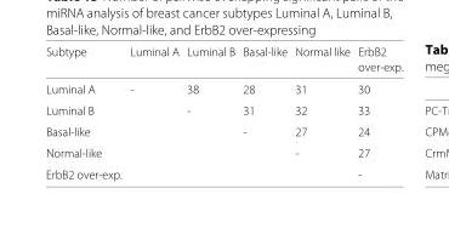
<table><thead><tr><td rowspan="2">Subtype</td><td rowspan="2">Luminal A</td><td rowspan="2">Luminal B</td><td rowspan="2">Basal-like</td><td rowspan="2">Normal like</td><td rowspan="2">ErbB2 over-exp.</td></tr><tr></tr></thead><tbody><tr><td>Luminal A</td><td>-</td><td>38</td><td>28</td><td>31</td><td>30</td></tr><tr><td>Luminal B</td><td></td><td>-</td><td>31</td><td>32</td><td>33</td></tr><tr><td>Basal-like</td><td></td><td></td><td>-</td><td>27</td><td>24</td></tr><tr><td>Normal-like</td><td></td><td></td><td></td><td>-</td><td>27</td></tr><tr><td>ErbB2 over-exp.</td><td></td><td></td><td></td><td></td><td>-</td></tr></tbody></table>